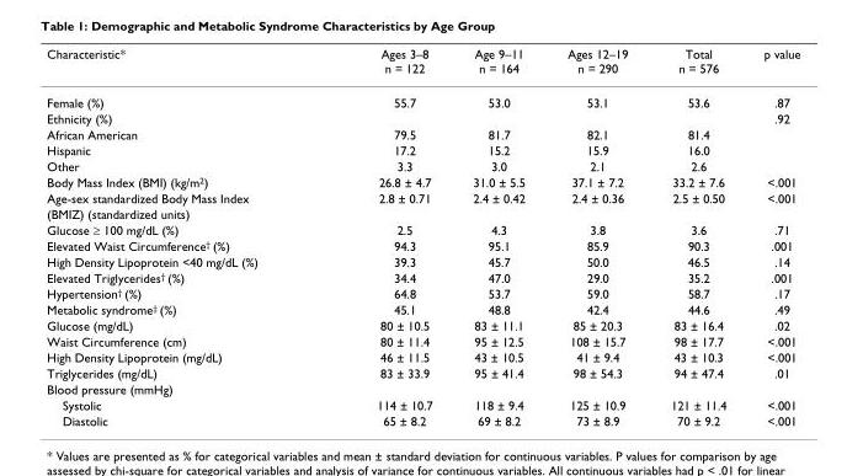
<table><thead><tr><td>Characteristic*</td><td>Ages 3–8 n = 122</td><td>Age 9–11 n = 164</td><td>Ages 12–19 n = 290</td><td>Total n = 576</td><td>p value</td></tr></thead><tbody><tr><td>Female (%)</td><td>55.7</td><td>53.0</td><td>53.1</td><td>53.6</td><td>.87</td></tr><tr><td>Ethnicity (%)</td><td></td><td></td><td></td><td></td><td>.92</td></tr><tr><td>African American</td><td>79.5</td><td>81.7</td><td>82.1</td><td>81.4</td><td></td></tr><tr><td>Hispanic</td><td>17.2</td><td>15.2</td><td>15.9</td><td>16.0</td><td></td></tr><tr><td>Other</td><td>3.3</td><td>3.0</td><td>2.1</td><td>2.6</td><td></td></tr><tr><td>Body Mass Index (BMI) (kg/m<sup>2</sup>)</td><td>26.8 ± 4.7</td><td>31.0 ± 5.5</td><td>37.1 ± 7.2</td><td>33.2 ± 7.6</td><td>&lt;.001</td></tr><tr><td>Age-sex standardized Body Mass Index</td><td>2.8 ± 0.71</td><td>2.4 ± 0.42</td><td>2.4 ± 0.36</td><td>2.5 ± 0.50</td><td>&lt;.001</td></tr><tr><td colspan="6">(BMIZ) (standardized units)</td></tr><tr><td>Glucose ≥ 100 mg/dL (%)</td><td>2.5</td><td>4.3</td><td>3.8</td><td>3.6</td><td>.71</td></tr><tr><td>Elevated Waist Circumference<sup>†</sup> (%)</td><td>94.3</td><td>95.1</td><td>85.9</td><td>90.3</td><td>.001</td></tr><tr><td>High Density Lipoprotein &lt;40 mg/dL (%)</td><td>39.3</td><td>45.7</td><td>50.0</td><td>46.5</td><td>.14</td></tr><tr><td>Elevated Triglycerides<sup>†</sup> (%)</td><td>34.4</td><td>47.0</td><td>29.0</td><td>35.2</td><td>.001</td></tr><tr><td>Hypertension<sup>†</sup> (%)</td><td>64.8</td><td>53.7</td><td>59.0</td><td>58.7</td><td>.17</td></tr><tr><td>Metabolic syndrome<sup>‡</sup> (%)</td><td>45.1</td><td>48.8</td><td>42.4</td><td>44.6</td><td>.49</td></tr><tr><td>Glucose (mg/dL)</td><td>80 ± 10.5</td><td>83 ± 11.1</td><td>85 ± 20.3</td><td>83 ± 16.4</td><td>.02</td></tr><tr><td>Waist Circumference (cm)</td><td>80 ± 11.4</td><td>95 ± 12.5</td><td>108 ± 15.7</td><td>98 ± 17.7</td><td>&lt;.001</td></tr><tr><td>High Density Lipoprotein (mg/dL)</td><td>46 ± 11.5</td><td>43 ± 10.5</td><td>41 ± 9.4</td><td>43 ± 10.3</td><td>&lt;.001</td></tr><tr><td>Triglycerides (mg/dL)</td><td>83 ± 33.9</td><td>95 ± 41.4</td><td>98 ± 54.3</td><td>94 ± 47.4</td><td>.01</td></tr><tr><td colspan="6">Blood pressure (mmHg)</td></tr><tr><td>Systolic</td><td>114 ± 10.7</td><td>118 ± 9.4</td><td>125 ± 10.9</td><td>121 ± 11.4</td><td>&lt;.001</td></tr><tr><td>Diastolic</td><td>65 ± 8.2</td><td>69 ± 8.2</td><td>73 ± 8.9</td><td>70 ± 9.2</td><td>&lt;.001</td></tr></tbody></table>